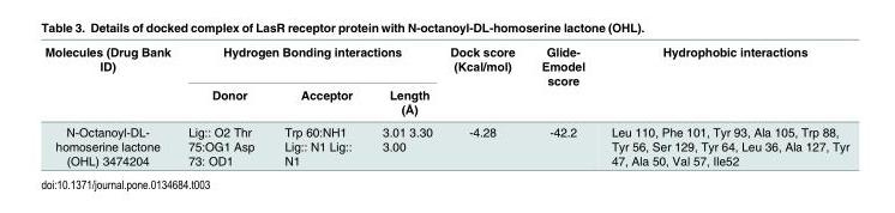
<table><thead><tr><td rowspan="2">Molecules (Drug Bank ID)</td><td colspan="3">Hydrogen Bonding interactions</td><td rowspan="2">Dock score (Kcal/mol)</td><td rowspan="2">Glide- Emodel score</td><td rowspan="2">Hydrophobic interactions</td></tr><tr><td>Donor</td><td>Acceptor</td><td>Length (Å)</td></tr></thead><tbody><tr><td>N-Octanoyl-DL- homoserine lactone (OHL) 3474204</td><td>Lig:: O2 Thr 75:OG1 Asp 73: OD1</td><td>Trp 60:NH1 Lig:: N1 Lig:: N1</td><td>3.01 3.30 3.00</td><td>-4.28</td><td>-42.2</td><td>Leu 110, Phe 101, Tyr 93, Ala 105, Trp 88, Tyr 56, Ser 129, Tyr 64, Leu 36, Ala 127, Tyr 47, Ala 50, Val 57, Ile52</td></tr></tbody></table>